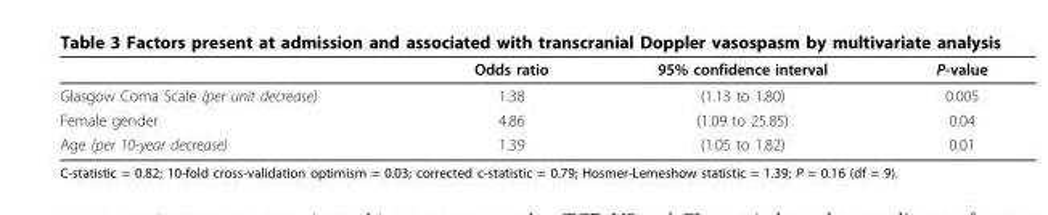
<table><thead><tr><td></td><td>Odds ratio</td><td>95% confidence interval</td><td>P-value</td></tr></thead><tbody><tr><td>Glasgow Coma Scale (per unit decrease)</td><td>1.38</td><td>(1.13 to 1.80)</td><td>0.005</td></tr><tr><td>Female gender</td><td>4.86</td><td>(1.09 to 25.85)</td><td>0.04</td></tr><tr><td>Age (per 10-year decrease)</td><td>1.39</td><td>(1.05 to 1.82)</td><td>0.01</td></tr></tbody></table>